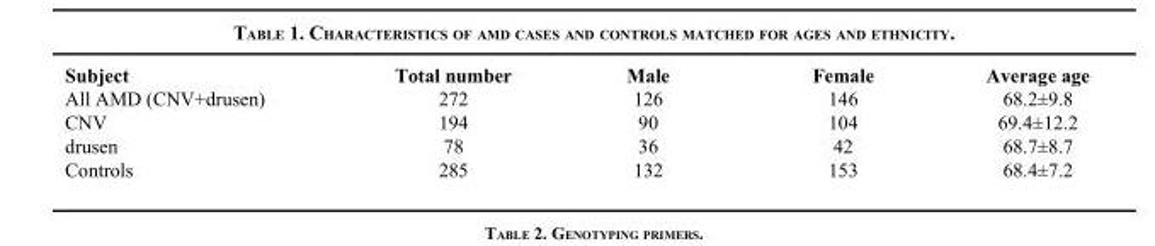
<table><thead><tr><td>Subject</td><td>Total number</td><td>Male</td><td>Female</td><td>Average age</td></tr></thead><tbody><tr><td>All AMD (CNV+drusen)</td><td>272</td><td>126</td><td>146</td><td>68.2±9.8</td></tr><tr><td>CNV</td><td>194</td><td>90</td><td>104</td><td>69.4±12.2</td></tr><tr><td>drusen</td><td>78</td><td>36</td><td>42</td><td>68.7±8.7</td></tr><tr><td>Controls</td><td>285</td><td>132</td><td>153</td><td>68.4±7.2</td></tr></tbody></table>